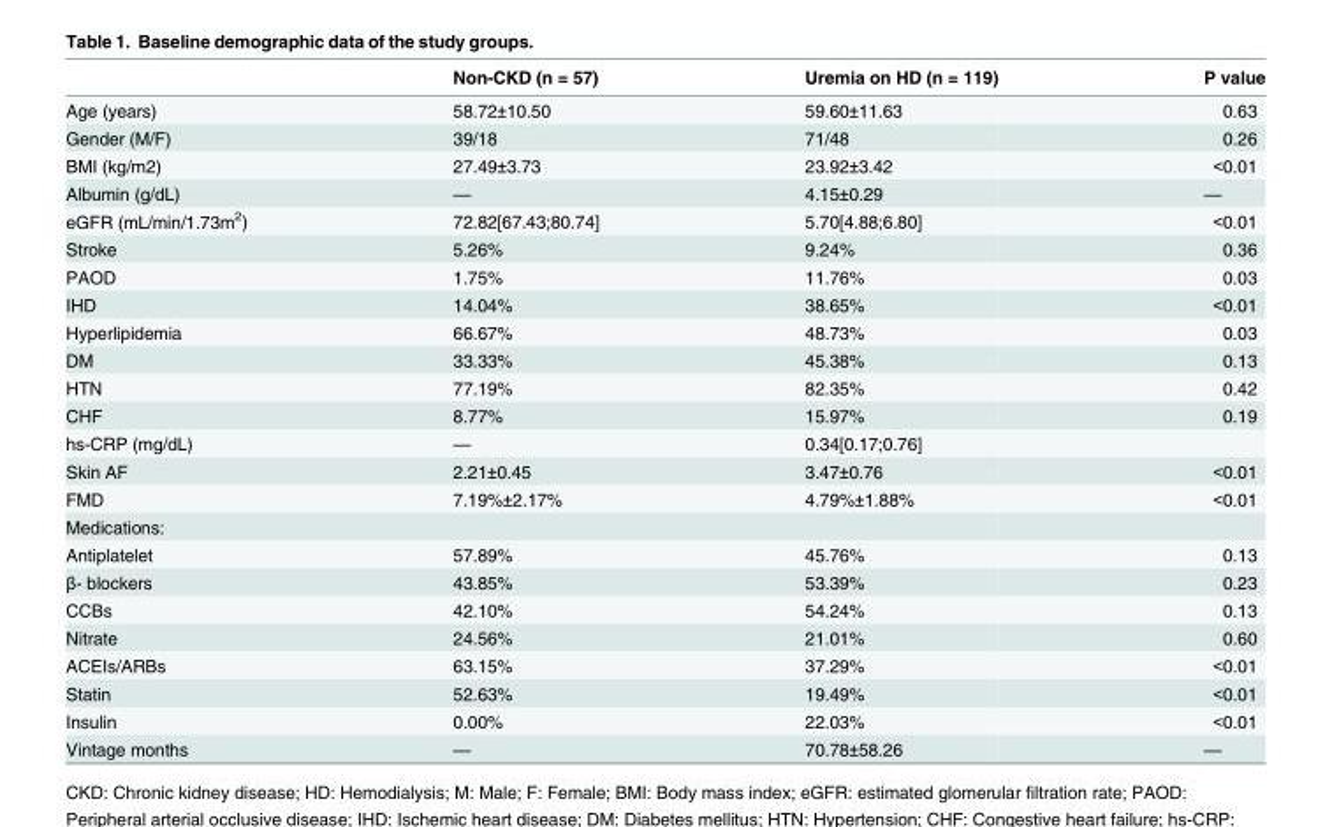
<table><thead><tr><td></td><td>Non-CKD (n = 57)</td><td>Uremia on HD (n = 119)</td><td>P value</td></tr></thead><tbody><tr><td>Age (years)</td><td>58.72±10.50</td><td>59.60±11.63</td><td>0.63</td></tr><tr><td>Gender (M/F)</td><td>39/18</td><td>71/48</td><td>0.26</td></tr><tr><td>BMI (kg/m2)</td><td>27.49±3.73</td><td>23.92±3.42</td><td>&lt;0.01</td></tr><tr><td>Albumin (g/dL)</td><td>—</td><td>4.15±0.29</td><td>—</td></tr><tr><td>eGFR (mL/min/1.73m<sup>2</sup>)</td><td>72.82[67.43;80.74]</td><td>5.70[4.88;6.80]</td><td>&lt;0.01</td></tr><tr><td>Stroke</td><td>5.26%</td><td>9.24%</td><td>0.36</td></tr><tr><td>PAOD</td><td>1.75%</td><td>11.76%</td><td>0.03</td></tr><tr><td>IHD</td><td>14.04%</td><td>38.65%</td><td>&lt;0.01</td></tr><tr><td>Hyperlipidemia</td><td>66.67%</td><td>48.73%</td><td>0.03</td></tr><tr><td>DM</td><td>33.33%</td><td>45.38%</td><td>0.13</td></tr><tr><td>HTN</td><td>77.19%</td><td>82.35%</td><td>0.42</td></tr><tr><td>CHF</td><td>8.77%</td><td>15.97%</td><td>0.19</td></tr><tr><td>hs-CRP (mg/dL)</td><td>—</td><td>0.34[0.17;0.76]</td><td></td></tr><tr><td>Skin AF</td><td>2.21±0.45</td><td>3.47±0.76</td><td>&lt;0.01</td></tr><tr><td>FMD</td><td>7.19%±2.17%</td><td>4.79%±1.88%</td><td>&lt;0.01</td></tr><tr><td colspan="4">Medications:</td></tr><tr><td>Antiplatelet</td><td>57.89%</td><td>45.76%</td><td>0.13</td></tr><tr><td>β- blockers</td><td>43.85%</td><td>53.39%</td><td>0.23</td></tr><tr><td>CCBs</td><td>42.10%</td><td>54.24%</td><td>0.13</td></tr><tr><td>Nitrate</td><td>24.56%</td><td>21.01%</td><td>0.60</td></tr><tr><td>ACEIs/ARBs</td><td>63.15%</td><td>37.29%</td><td>&lt;0.01</td></tr><tr><td>Statin</td><td>52.63%</td><td>19.49%</td><td>&lt;0.01</td></tr><tr><td>Insulin</td><td>0.00%</td><td>22.03%</td><td>&lt;0.01</td></tr><tr><td>Vintage months</td><td>—</td><td>70.78±58.26</td><td>—</td></tr></tbody></table>